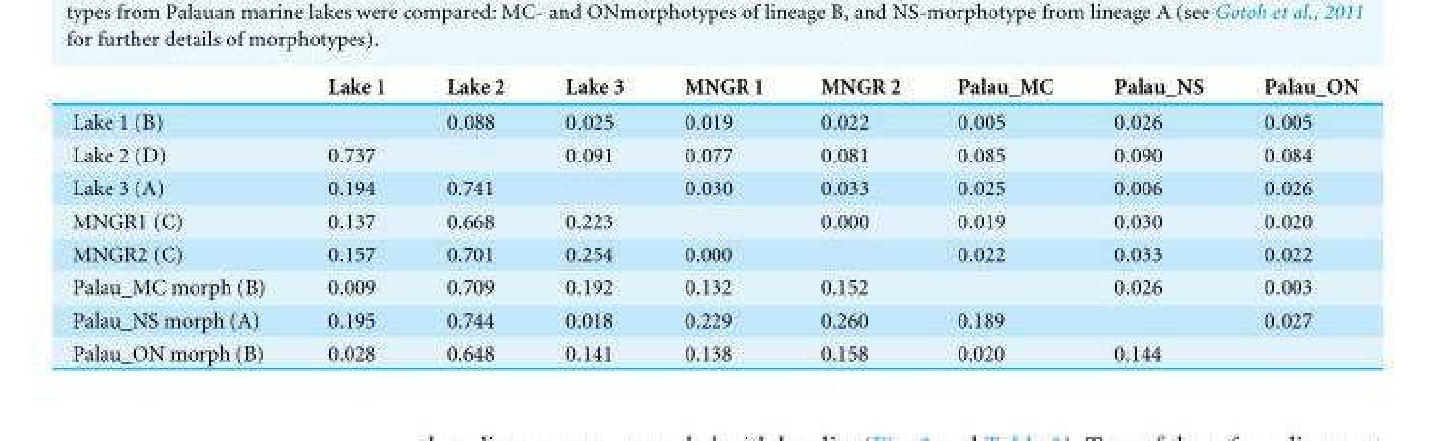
<table><thead><tr><td></td><td>Lake 1</td><td>Lake 2</td><td>Lake 3</td><td>MNGR 1</td><td>MNGR 2</td><td>Palau_MC</td><td>Palau_NS</td><td>Palau_ON</td></tr></thead><tbody><tr><td>Lake 1 (B)</td><td></td><td>0.088</td><td>0.025</td><td>0.019</td><td>0.022</td><td>0.005</td><td>0.026</td><td>0.005</td></tr><tr><td>Lake 2 (D)</td><td>0.737</td><td></td><td>0.091</td><td>0.077</td><td>0.081</td><td>0.085</td><td>0.090</td><td>0.084</td></tr><tr><td>Lake 3 (A)</td><td>0.194</td><td>0.741</td><td></td><td>0.030</td><td>0.033</td><td>0.025</td><td>0.006</td><td>0.026</td></tr><tr><td>MNGR1 (C)</td><td>0.137</td><td>0.668</td><td>0.223</td><td></td><td>0.000</td><td>0.019</td><td>0.030</td><td>0.020</td></tr><tr><td>MNGR2 (C)</td><td>0.157</td><td>0.701</td><td>0.254</td><td>0.000</td><td></td><td>0.022</td><td>0.033</td><td>0.022</td></tr><tr><td>Palau_MC morph (B)</td><td>0.009</td><td>0.709</td><td>0.192</td><td>0.132</td><td>0.152</td><td></td><td>0.026</td><td>0.003</td></tr><tr><td>Palau_NS morph (A)</td><td>0.195</td><td>0.744</td><td>0.018</td><td>0.229</td><td>0.260</td><td>0.189</td><td></td><td>0.027</td></tr><tr><td>Palau_ON morph (B)</td><td>0.028</td><td>0.648</td><td>0.141</td><td>0.138</td><td>0.158</td><td>0.020</td><td>0.144</td><td></td></tr></tbody></table>